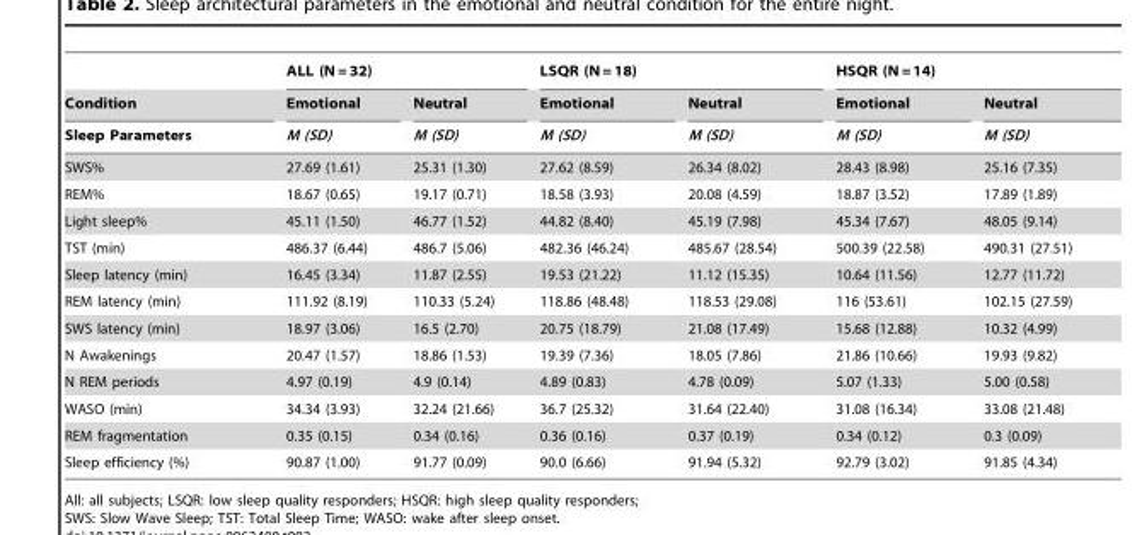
<table><thead><tr><td rowspan="3">Condition Sleep Parameters</td><td colspan="2">ALL (N = 32)</td><td colspan="2">LSQR (N = 18)</td><td colspan="2">HSQR (N = 14)</td></tr><tr><td rowspan="2">Emotional M (SD)</td><td rowspan="2">Neutral M (SD)</td><td rowspan="2">Emotional M (SD)</td><td rowspan="2">Neutral M (SD)</td><td rowspan="2">Emotional M (SD)</td><td rowspan="2">Neutral M (SD)</td></tr><tr></tr></thead><tbody><tr><td>SWS%</td><td>27.69 (1.61)</td><td>25.31 (1.30)</td><td>27.62 (8.59)</td><td>26.34 (8.02)</td><td>28.43 (8.98)</td><td>25.16 (7.35)</td></tr><tr><td>REM%</td><td>18.67 (0.65)</td><td>19.17 (0.71)</td><td>18.58 (3.93)</td><td>20.08 (4.59)</td><td>18.87 (3.52)</td><td>17.89 (1.89)</td></tr><tr><td>Light sleep%</td><td>45.11 (1.50)</td><td>46.77 (1.52)</td><td>44.82 (8.40)</td><td>45.19 (7.98)</td><td>45.34 (7.67)</td><td>48.05 (9.14)</td></tr><tr><td>TST (min)</td><td>486.37 (6.44)</td><td>486.7 (5.06)</td><td>482.36 (46.24)</td><td>485.67 (28.54)</td><td>500.39 (22.58)</td><td>490.31 (27.51)</td></tr><tr><td>Sleep latency (min)</td><td>16.45 (3.34)</td><td>11.87 (2.55)</td><td>19.53 (21.22)</td><td>11.12 (15.35)</td><td>10.64 (11.56)</td><td>12.77 (11.72)</td></tr><tr><td>REM latency (min)</td><td>111.92 (8.19)</td><td>110.33 (5.24)</td><td>118.86 (48.48)</td><td>118.53 (29.08)</td><td>116 (53.61)</td><td>102.15 (27.59)</td></tr><tr><td>SWS latency (min)</td><td>18.97 (3.06)</td><td>16.5 (2.70)</td><td>20.75 (18.79)</td><td>21.08 (17.49)</td><td>15.68 (12.88)</td><td>10.32 (4.99)</td></tr><tr><td>N Awakenings</td><td>20.47 (1.57)</td><td>18.86 (1.53)</td><td>19.39 (7.36)</td><td>18.05 (7.86)</td><td>21.86 (10.66)</td><td>19.93 (9.82)</td></tr><tr><td>N REM periods</td><td>4.97 (0.19)</td><td>4.9 (0.14)</td><td>4.89 (0.83)</td><td>4.78 (0.09)</td><td>5.07 (1.33)</td><td>5.00 (0.58)</td></tr><tr><td>WASO (min)</td><td>34.34 (3.93)</td><td>32.24 (21.66)</td><td>36.7 (25.32)</td><td>31.64 (22.40)</td><td>31.08 (16.34)</td><td>33.08 (21.48)</td></tr><tr><td>REM fragmentation</td><td>0.35 (0.15)</td><td>0.34 (0.16)</td><td>0.36 (0.16)</td><td>0.37 (0.19)</td><td>0.34 (0.12)</td><td>0.3 (0.09)</td></tr><tr><td>Sleep efficiency (%)</td><td>90.87 (1.00)</td><td>91.77 (0.09)</td><td>90.0 (6.66)</td><td>91.94 (5.32)</td><td>92.79 (3.02)</td><td>91.85 (4.34)</td></tr></tbody></table>